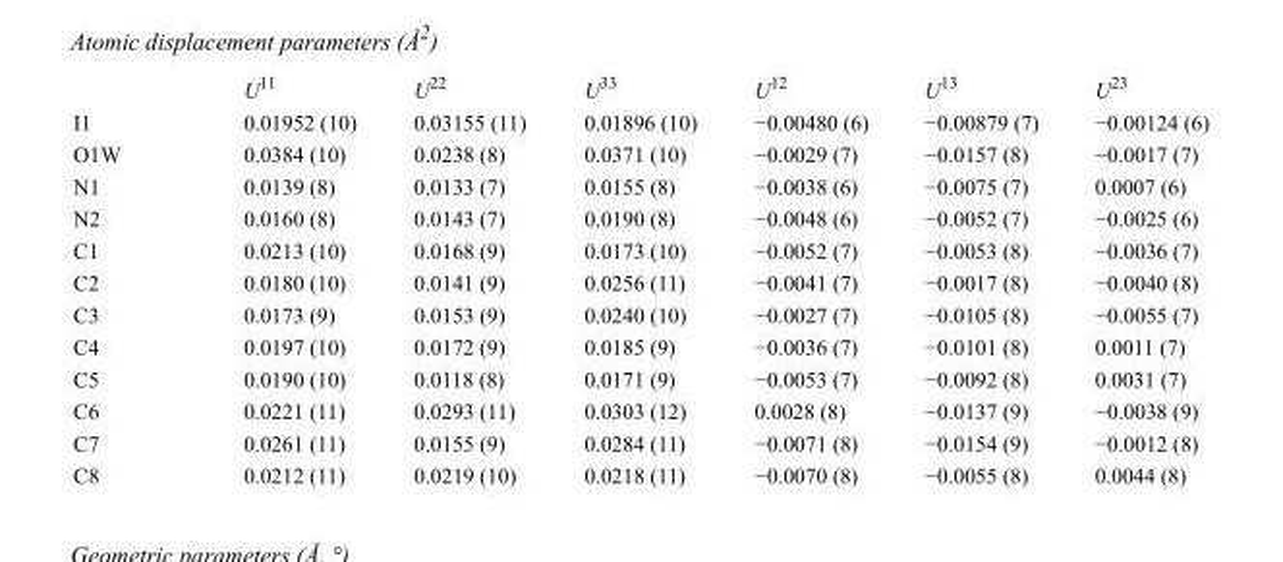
<table><thead><tr><td></td><td>U<sup>11</sup></td><td>U<sup>22</sup></td><td>U<sup>33</sup></td><td>U<sup>12</sup></td><td>U<sup>13</sup></td><td>U<sup>23</sup></td></tr></thead><tbody><tr><td>I1</td><td>0.01952 (10)</td><td>0.03155 (11)</td><td>0.01896 (10)</td><td>−0.00480 (6)</td><td>−0.00879 (7)</td><td>−0.00124 (6)</td></tr><tr><td>O1W</td><td>0.0384 (10)</td><td>0.0238 (8)</td><td>0.0371 (10)</td><td>−0.0029 (7)</td><td>−0.0157 (8)</td><td>−0.0017 (7)</td></tr><tr><td>N1</td><td>0.0139 (8)</td><td>0.0133 (7)</td><td>0.0155 (8)</td><td>−0.0038 (6)</td><td>−0.0075 (7)</td><td>0.0007 (6)</td></tr><tr><td>N2</td><td>0.0160 (8)</td><td>0.0143 (7)</td><td>0.0190 (8)</td><td>−0.0048 (6)</td><td>−0.0052 (7)</td><td>−0.0025 (6)</td></tr><tr><td>C1</td><td>0.0213 (10)</td><td>0.0168 (9)</td><td>0.0173 (10)</td><td>−0.0052 (7)</td><td>−0.0053 (8)</td><td>−0.0036 (7)</td></tr><tr><td>C2</td><td>0.0180 (10)</td><td>0.0141 (9)</td><td>0.0256 (11)</td><td>−0.0041 (7)</td><td>−0.0017 (8)</td><td>−0.0040 (8)</td></tr><tr><td>C3</td><td>0.0173 (9)</td><td>0.0153 (9)</td><td>0.0240 (10)</td><td>−0.0027 (7)</td><td>−0.0105 (8)</td><td>−0.0055 (7)</td></tr><tr><td>C4</td><td>0.0197 (10)</td><td>0.0172 (9)</td><td>0.0185 (9)</td><td>−0.0036 (7)</td><td>−0.0101 (8)</td><td>0.0011 (7)</td></tr><tr><td>C5</td><td>0.0190 (10)</td><td>0.0118 (8)</td><td>0.0171 (9)</td><td>−0.0053 (7)</td><td>−0.0092 (8)</td><td>0.0031 (7)</td></tr><tr><td>C6</td><td>0.0221 (11)</td><td>0.0293 (11)</td><td>0.0303 (12)</td><td>0.0028 (8)</td><td>−0.0137 (9)</td><td>−0.0038 (9)</td></tr><tr><td>C7</td><td>0.0261 (11)</td><td>0.0155 (9)</td><td>0.0284 (11)</td><td>−0.0071 (8)</td><td>−0.0154 (9)</td><td>−0.0012 (8)</td></tr><tr><td>C8</td><td>0.0212 (11)</td><td>0.0219 (10)</td><td>0.0218 (11)</td><td>−0.0070 (8)</td><td>−0.0055 (8)</td><td>0.0044 (8)</td></tr></tbody></table>